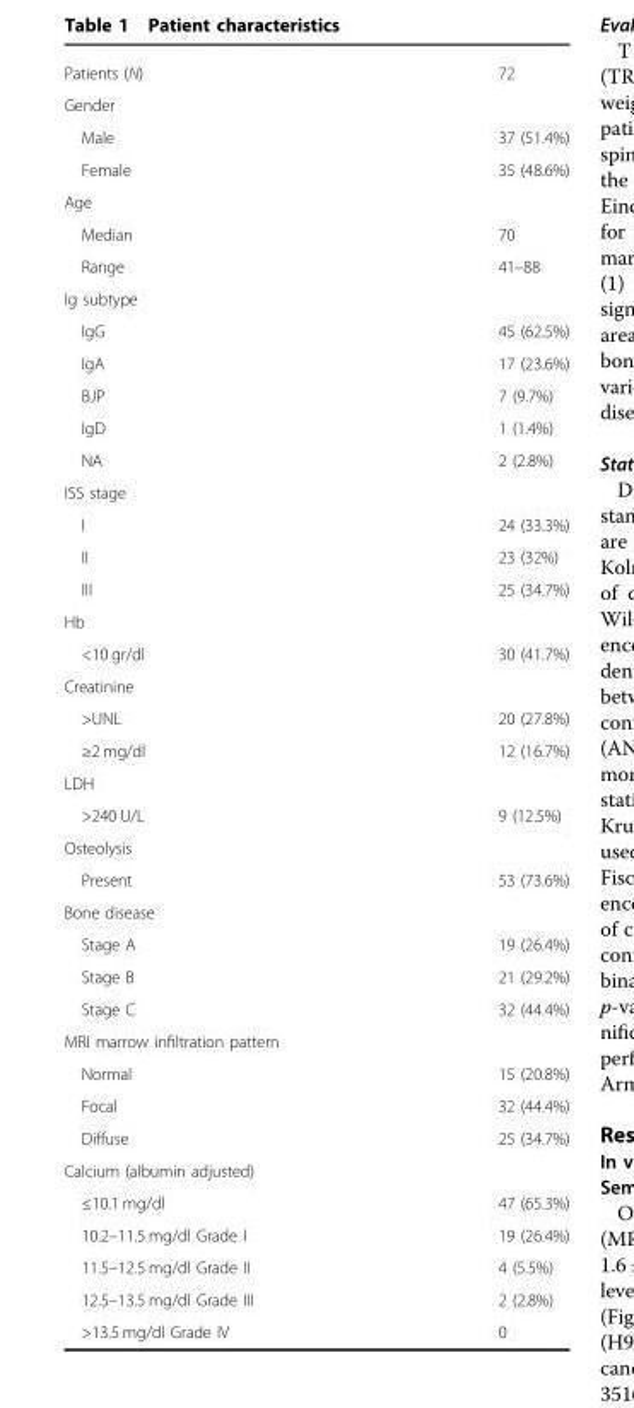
<table><tbody><tr><td>Patients (N)</td><td>72</td></tr><tr><td colspan="2">Gender</td></tr><tr><td>Male</td><td>37 (51.4%)</td></tr><tr><td>Female</td><td>35 (48.6%)</td></tr><tr><td colspan="2">Age</td></tr><tr><td>Median</td><td>70</td></tr><tr><td>Range</td><td>41–88</td></tr><tr><td colspan="2">Ig subtype</td></tr><tr><td>IgG</td><td>45 (62.5%)</td></tr><tr><td>IgA</td><td>17 (23.6%)</td></tr><tr><td>BJP</td><td>7 (9.7%)</td></tr><tr><td>IgD</td><td>1 (1.4%)</td></tr><tr><td>NA</td><td>2 (2.8%)</td></tr><tr><td colspan="2">ISS stage</td></tr><tr><td>I</td><td>24 (33.3%)</td></tr><tr><td>II</td><td>23 (32%)</td></tr><tr><td>III</td><td>25 (34.7%)</td></tr><tr><td colspan="2">Hb</td></tr><tr><td>&lt;10 gr/dl</td><td>30 (41.7%)</td></tr><tr><td colspan="2">Creatinine</td></tr><tr><td>&gt;UNL</td><td>20 (27.8%)</td></tr><tr><td>≥2 mg/dl</td><td>12 (16.7%)</td></tr><tr><td colspan="2">LDH</td></tr><tr><td>&gt;240 U/L</td><td>9 (12.5%)</td></tr><tr><td colspan="2">Osteolysis</td></tr><tr><td>Present</td><td>53 (73.6%)</td></tr><tr><td colspan="2">Bone disease</td></tr><tr><td>Stage A</td><td>19 (26.4%)</td></tr><tr><td>Stage B</td><td>21 (29.2%)</td></tr><tr><td>Stage C</td><td>32 (44.4%)</td></tr><tr><td colspan="2">MRI marrow infiltration pattern</td></tr><tr><td>Normal</td><td>15 (20.8%)</td></tr><tr><td>Focal</td><td>32 (44.4%)</td></tr><tr><td>Diffuse</td><td>25 (34.7%)</td></tr><tr><td colspan="2">Calcium (albumin adjusted)</td></tr><tr><td>≤10.1 mg/dl</td><td>47 (65.3%)</td></tr><tr><td>10.2–11.5 mg/dl Grade I</td><td>19 (26.4%)</td></tr><tr><td>11.5–12.5 mg/dl Grade II</td><td>4 (5.5%)</td></tr><tr><td>12.5–13.5 mg/dl Grade III</td><td>2 (2.8%)</td></tr><tr><td>&gt;13.5 mg/dl Grade IV</td><td>0</td></tr></tbody></table>